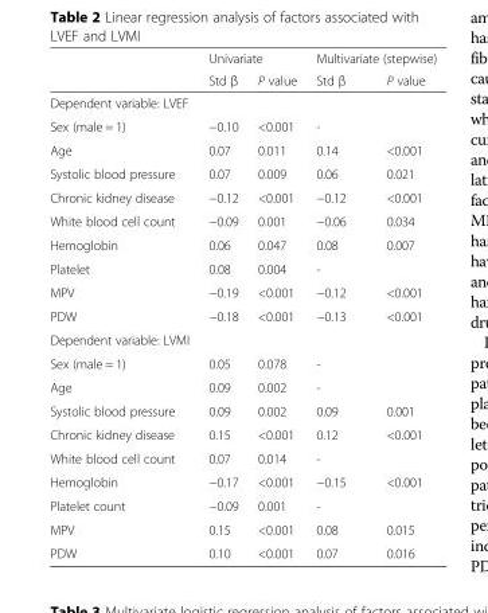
<table><thead><tr><td rowspan="2"></td><td colspan="2">Univariate</td><td colspan="2">Multivariate (stepwise)</td></tr><tr><td>Std β</td><td>P value</td><td>Std β</td><td>P value</td></tr></thead><tbody><tr><td colspan="5">Dependent variable: LVEF</td></tr><tr><td>Sex (male = 1)</td><td>−0.10</td><td>&lt;0.001</td><td colspan="2">-</td></tr><tr><td>Age</td><td>0.07</td><td>0.011</td><td>0.14</td><td>&lt;0.001</td></tr><tr><td>Systolic blood pressure</td><td>0.07</td><td>0.009</td><td>0.06</td><td>0.021</td></tr><tr><td>Chronic kidney disease</td><td>−0.12</td><td>&lt;0.001</td><td>−0.12</td><td>&lt;0.001</td></tr><tr><td>White blood cell count</td><td>−0.09</td><td>0.001</td><td>−0.06</td><td>0.034</td></tr><tr><td>Hemoglobin</td><td>0.06</td><td>0.047</td><td>0.08</td><td>0.007</td></tr><tr><td>Platelet</td><td>0.08</td><td>0.004</td><td colspan="2">-</td></tr><tr><td>MPV</td><td>−0.19</td><td>&lt;0.001</td><td>−0.12</td><td>&lt;0.001</td></tr><tr><td>PDW</td><td>−0.18</td><td>&lt;0.001</td><td>−0.13</td><td>&lt;0.001</td></tr><tr><td colspan="5">Dependent variable: LVMI</td></tr><tr><td>Sex (male = 1)</td><td>0.05</td><td>0.078</td><td colspan="2">-</td></tr><tr><td>Age</td><td>0.09</td><td>0.002</td><td colspan="2">-</td></tr><tr><td>Systolic blood pressure</td><td>0.09</td><td>0.002</td><td>0.09</td><td>0.001</td></tr><tr><td>Chronic kidney disease</td><td>0.15</td><td>&lt;0.001</td><td>0.12</td><td>&lt;0.001</td></tr><tr><td>White blood cell count</td><td>0.07</td><td>0.014</td><td colspan="2">-</td></tr><tr><td>Hemoglobin</td><td>−0.17</td><td>&lt;0.001</td><td>−0.15</td><td>&lt;0.001</td></tr><tr><td>Platelet count</td><td>−0.09</td><td>0.001</td><td colspan="2">-</td></tr><tr><td>MPV</td><td>0.15</td><td>&lt;0.001</td><td>0.08</td><td>0.015</td></tr><tr><td>PDW</td><td>0.10</td><td>&lt;0.001</td><td>0.07</td><td>0.016</td></tr></tbody></table>